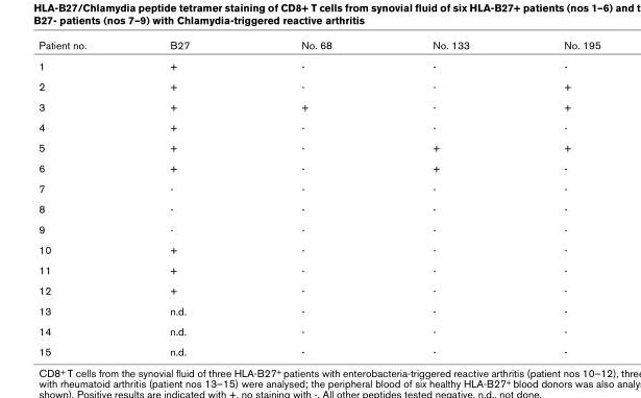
<table><thead><tr><td>Patient no.</td><td>B27</td><td>No. 68</td><td>No. 133</td><td>No. 195</td></tr></thead><tbody><tr><td>1</td><td>+</td><td>-</td><td>-</td><td>-</td></tr><tr><td>2</td><td>+</td><td>-</td><td>-</td><td>+</td></tr><tr><td>3</td><td>+</td><td>+</td><td>-</td><td>+</td></tr><tr><td>4</td><td>+</td><td>-</td><td>-</td><td>-</td></tr><tr><td>5</td><td>+</td><td>-</td><td>+</td><td>+</td></tr><tr><td>6</td><td>+</td><td>-</td><td>+</td><td>-</td></tr><tr><td>7</td><td>-</td><td>-</td><td>-</td><td>-</td></tr><tr><td>8</td><td>-</td><td>-</td><td>-</td><td>-</td></tr><tr><td>9</td><td>-</td><td>-</td><td>-</td><td>-</td></tr><tr><td>10</td><td>+</td><td>-</td><td>-</td><td>-</td></tr><tr><td>11</td><td>+</td><td>-</td><td>-</td><td>-</td></tr><tr><td>12</td><td>+</td><td>-</td><td>-</td><td>-</td></tr><tr><td>13</td><td>n.d.</td><td>-</td><td>-</td><td>-</td></tr><tr><td>14</td><td>n.d.</td><td>-</td><td>-</td><td>-</td></tr><tr><td>15</td><td>n.d.</td><td>-</td><td>-</td><td>-</td></tr></tbody></table>